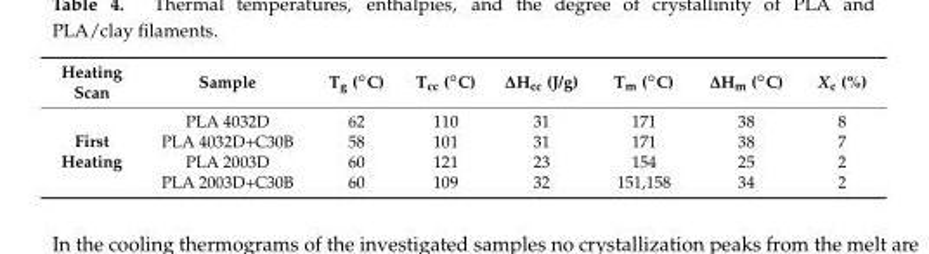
<table><thead><tr><td>Heating Scan</td><td>Sample</td><td>Tg (◦C)</td><td>Tcc (◦C)</td><td>∆Hcc (J/g)</td><td>Tm (◦C)</td><td>∆Hm (◦C)</td><td>X<sub>c</sub> (%)</td></tr></thead><tbody><tr><td rowspan="4">First Heating</td><td>PLA 4032D</td><td>62</td><td>110</td><td>31</td><td>171</td><td>38</td><td>8</td></tr><tr><td>PLA 4032D+C30B</td><td>58</td><td>101</td><td>31</td><td>171</td><td>38</td><td>7</td></tr><tr><td>PLA 2003D</td><td>60</td><td>121</td><td>23</td><td>154</td><td>25</td><td>2</td></tr><tr><td>PLA 2003D+C30B</td><td>60</td><td>109</td><td>32</td><td>151,158</td><td>34</td><td>2</td></tr></tbody></table>